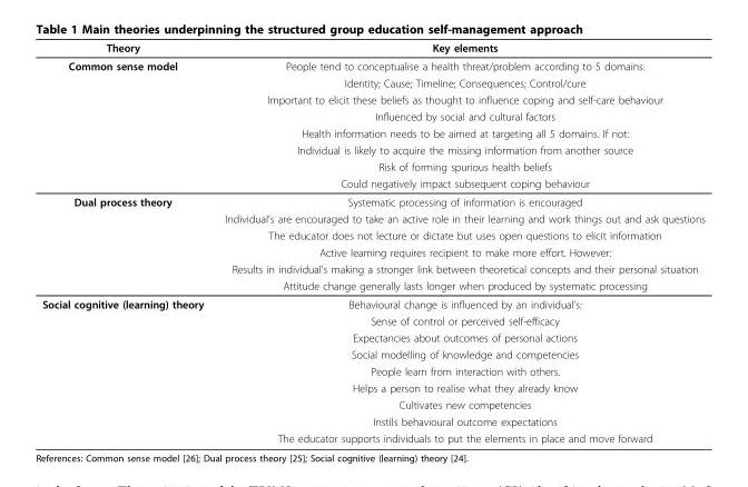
<table><thead><tr><td>Theory</td><td>Key elements</td></tr></thead><tbody><tr><td rowspan="8">Common sense model</td><td>People tend to conceptualise a health threat/problem according to 5 domains:</td></tr><tr><td>Identity; Cause; Timeline; Consequences; Control/cure</td></tr><tr><td>Important to elicit these beliefs as thought to influence coping and self-care behaviour</td></tr><tr><td>Influenced by social and cultural factors</td></tr><tr><td>Health information needs to be aimed at targeting all 5 domains. If not:</td></tr><tr><td>Individual is likely to acquire the missing information from another source</td></tr><tr><td>Risk of forming spurious health beliefs</td></tr><tr><td>Could negatively impact subsequent coping behaviour</td></tr><tr><td rowspan="6">Dual process theory</td><td>Systematic processing of information is encouraged</td></tr><tr><td>Individual’s are encouraged to take an active role in their learning and work things out and ask questions</td></tr><tr><td>The educator does not lecture or dictate but uses open questions to elicit information</td></tr><tr><td>Active learning requires recipient to make more effort. However:</td></tr><tr><td>Results in individual’s making a stronger link between theoretical concepts and their personal situation</td></tr><tr><td>Attitude change generally lasts longer when produced by systematic processing</td></tr><tr><td rowspan="9">Social cognitive (learning) theory</td><td>Behavioural change is influenced by an individual’s:</td></tr><tr><td>Sense of control or perceived self-efficacy</td></tr><tr><td>Expectancies about outcomes of personal actions</td></tr><tr><td>Social modelling of knowledge and competencies</td></tr><tr><td>People learn from interaction with others.</td></tr><tr><td>Helps a person to realise what they already know</td></tr><tr><td>Cultivates new competencies</td></tr><tr><td>Instils behavioural outcome expectations</td></tr><tr><td>The educator supports individuals to put the elements in place and move forward</td></tr></tbody></table>